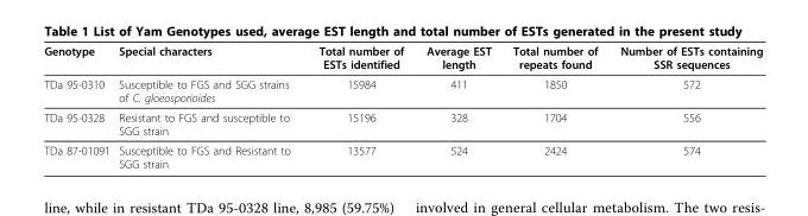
<table><thead><tr><td>Genotype</td><td>Special characters</td><td>Total number of ESTs identified</td><td>Average EST length</td><td>Total number of repeats found</td><td>Number of ESTs containing SSR sequences</td></tr></thead><tbody><tr><td>TDa 95-0310</td><td>Susceptible to FGS and SGG strains of C. gloeosporioides</td><td>15984</td><td>411</td><td>1850</td><td>572</td></tr><tr><td>TDa 95-0328</td><td>Resistant to FGS and susceptible to SGG strain</td><td>15196</td><td>328</td><td>1704</td><td>556</td></tr><tr><td>TDa 87-01091</td><td>Susceptible to FGS and Resistant to SGG strain</td><td>13577</td><td>524</td><td>2424</td><td>574</td></tr></tbody></table>